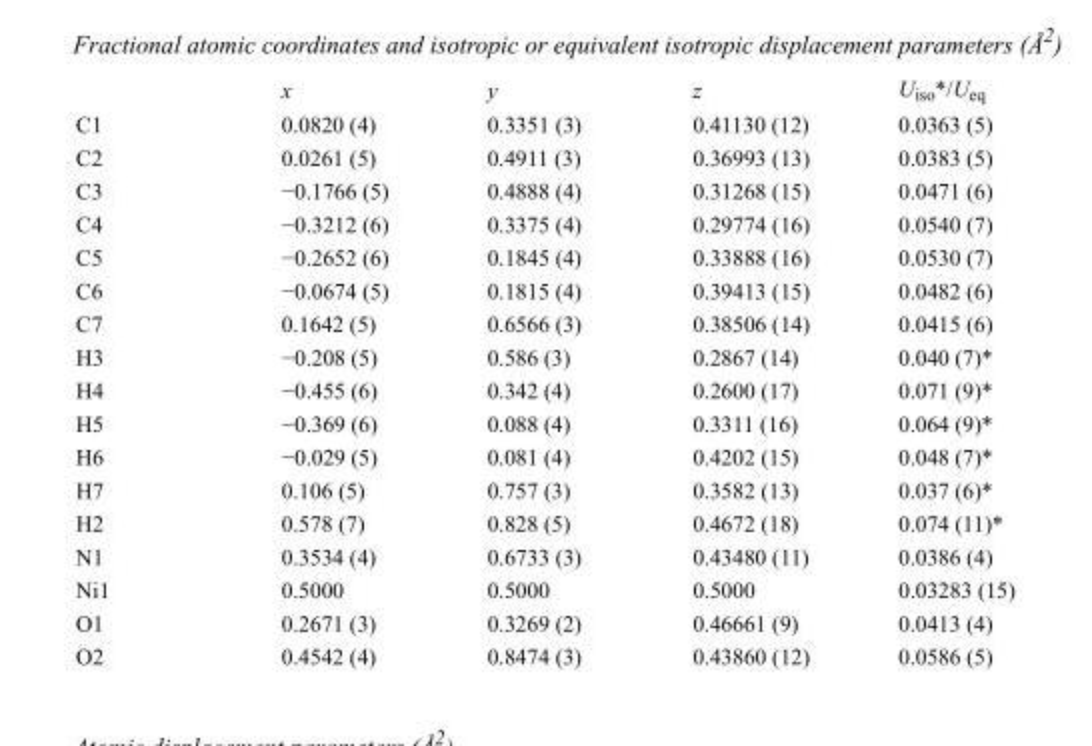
<table><thead><tr><td></td><td>x</td><td>y</td><td>z</td><td>U<sub>iso</sub>*/U<sub>eq</sub></td></tr></thead><tbody><tr><td>C1</td><td>0.0820 (4)</td><td>0.3351 (3)</td><td>0.41130 (12)</td><td>0.0363 (5)</td></tr><tr><td>C2</td><td>0.0261 (5)</td><td>0.4911 (3)</td><td>0.36993 (13)</td><td>0.0383 (5)</td></tr><tr><td>C3</td><td>−0.1766 (5)</td><td>0.4888 (4)</td><td>0.31268 (15)</td><td>0.0471 (6)</td></tr><tr><td>C4</td><td>−0.3212 (6)</td><td>0.3375 (4)</td><td>0.29774 (16)</td><td>0.0540 (7)</td></tr><tr><td>C5</td><td>−0.2652 (6)</td><td>0.1845 (4)</td><td>0.33888 (16)</td><td>0.0530 (7)</td></tr><tr><td>C6</td><td>−0.0674 (5)</td><td>0.1815 (4)</td><td>0.39413 (15)</td><td>0.0482 (6)</td></tr><tr><td>C7</td><td>0.1642 (5)</td><td>0.6566 (3)</td><td>0.38506 (14)</td><td>0.0415 (6)</td></tr><tr><td>H3</td><td>−0.208 (5)</td><td>0.586 (3)</td><td>0.2867 (14)</td><td>0.040 (7)*</td></tr><tr><td>H4</td><td>−0.455 (6)</td><td>0.342 (4)</td><td>0.2600 (17)</td><td>0.071 (9)*</td></tr><tr><td>H5</td><td>−0.369 (6)</td><td>0.088 (4)</td><td>0.3311 (16)</td><td>0.064 (9)*</td></tr><tr><td>H6</td><td>−0.029 (5)</td><td>0.081 (4)</td><td>0.4202 (15)</td><td>0.048 (7)*</td></tr><tr><td>H7</td><td>0.106 (5)</td><td>0.757 (3)</td><td>0.3582 (13)</td><td>0.037 (6)*</td></tr><tr><td>H2</td><td>0.578 (7)</td><td>0.828 (5)</td><td>0.4672 (18)</td><td>0.074 (11)*</td></tr><tr><td>N1</td><td>0.3534 (4)</td><td>0.6733 (3)</td><td>0.43480 (11)</td><td>0.0386 (4)</td></tr><tr><td>Ni1</td><td>0.5000</td><td>0.5000</td><td>0.5000</td><td>0.03283 (15)</td></tr><tr><td>O1</td><td>0.2671 (3)</td><td>0.3269 (2)</td><td>0.46661 (9)</td><td>0.0413 (4)</td></tr><tr><td>O2</td><td>0.4542 (4)</td><td>0.8474 (3)</td><td>0.43860 (12)</td><td>0.0586 (5)</td></tr></tbody></table>